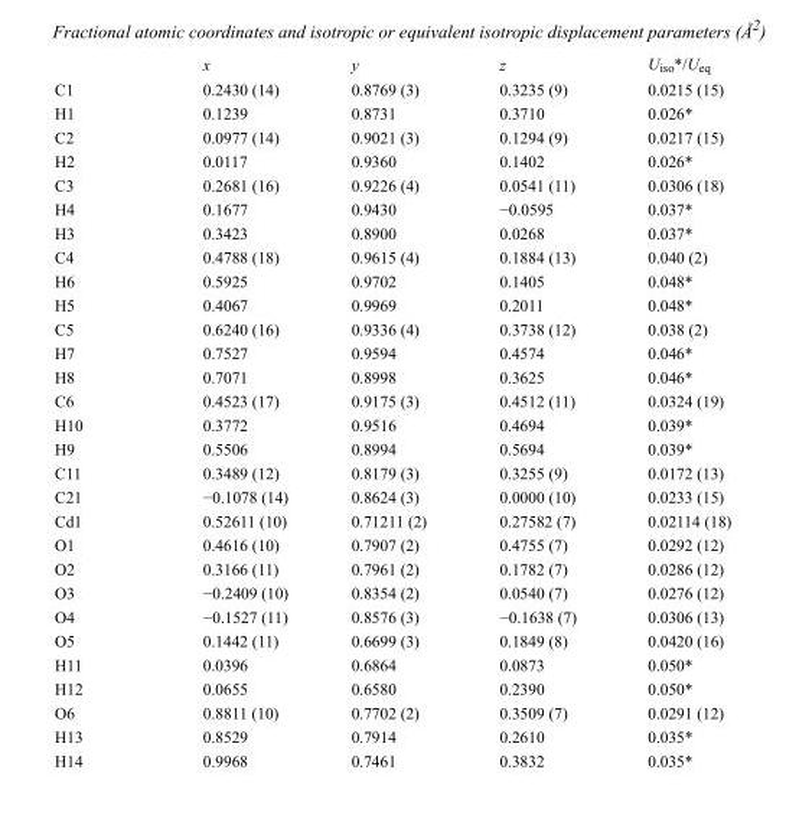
<table><thead><tr><td></td><td>x</td><td>y</td><td>z</td><td>U<sub>iso</sub>*/U<sub>eq</sub></td></tr></thead><tbody><tr><td>C1</td><td>0.2430 (14)</td><td>0.8769 (3)</td><td>0.3235 (9)</td><td>0.0215 (15)</td></tr><tr><td>H1</td><td>0.1239</td><td>0.8731</td><td>0.3710</td><td>0.026*</td></tr><tr><td>C2</td><td>0.0977 (14)</td><td>0.9021 (3)</td><td>0.1294 (9)</td><td>0.0217 (15)</td></tr><tr><td>H2</td><td>0.0117</td><td>0.9360</td><td>0.1402</td><td>0.026*</td></tr><tr><td>C3</td><td>0.2681 (16)</td><td>0.9226 (4)</td><td>0.0541 (11)</td><td>0.0306 (18)</td></tr><tr><td>H4</td><td>0.1677</td><td>0.9430</td><td>−0.0595</td><td>0.037*</td></tr><tr><td>H3</td><td>0.3423</td><td>0.8900</td><td>0.0268</td><td>0.037*</td></tr><tr><td>C4</td><td>0.4788 (18)</td><td>0.9615 (4)</td><td>0.1884 (13)</td><td>0.040 (2)</td></tr><tr><td>H6</td><td>0.5925</td><td>0.9702</td><td>0.1405</td><td>0.048*</td></tr><tr><td>H5</td><td>0.4067</td><td>0.9969</td><td>0.2011</td><td>0.048*</td></tr><tr><td>C5</td><td>0.6240 (16)</td><td>0.9336 (4)</td><td>0.3738 (12)</td><td>0.038 (2)</td></tr><tr><td>H7</td><td>0.7527</td><td>0.9594</td><td>0.4574</td><td>0.046*</td></tr><tr><td>H8</td><td>0.7071</td><td>0.8998</td><td>0.3625</td><td>0.046*</td></tr><tr><td>C6</td><td>0.4523 (17)</td><td>0.9175 (3)</td><td>0.4512 (11)</td><td>0.0324 (19)</td></tr><tr><td>H10</td><td>0.3772</td><td>0.9516</td><td>0.4694</td><td>0.039*</td></tr><tr><td>H9</td><td>0.5506</td><td>0.8994</td><td>0.5694</td><td>0.039*</td></tr><tr><td>C11</td><td>0.3489 (12)</td><td>0.8179 (3)</td><td>0.3255 (9)</td><td>0.0172 (13)</td></tr><tr><td>C21</td><td>−0.1078 (14)</td><td>0.8624 (3)</td><td>0.0000 (10)</td><td>0.0233 (15)</td></tr><tr><td>Cd1</td><td>0.52611 (10)</td><td>0.71211 (2)</td><td>0.27582 (7)</td><td>0.02114 (18)</td></tr><tr><td>O1</td><td>0.4616 (10)</td><td>0.7907 (2)</td><td>0.4755 (7)</td><td>0.0292 (12)</td></tr><tr><td>O2</td><td>0.3166 (11)</td><td>0.7961 (2)</td><td>0.1782 (7)</td><td>0.0286 (12)</td></tr><tr><td>O3</td><td>−0.2409 (10)</td><td>0.8354 (2)</td><td>0.0540 (7)</td><td>0.0276 (12)</td></tr><tr><td>O4</td><td>−0.1527 (11)</td><td>0.8576 (3)</td><td>−0.1638 (7)</td><td>0.0306 (13)</td></tr><tr><td>O5</td><td>0.1442 (11)</td><td>0.6699 (3)</td><td>0.1849 (8)</td><td>0.0420 (16)</td></tr><tr><td>H11</td><td>0.0396</td><td>0.6864</td><td>0.0873</td><td>0.050*</td></tr><tr><td>H12</td><td>0.0655</td><td>0.6580</td><td>0.2390</td><td>0.050*</td></tr><tr><td>O6</td><td>0.8811 (10)</td><td>0.7702 (2)</td><td>0.3509 (7)</td><td>0.0291 (12)</td></tr><tr><td>H13</td><td>0.8529</td><td>0.7914</td><td>0.2610</td><td>0.035*</td></tr><tr><td>H14</td><td>0.9968</td><td>0.7461</td><td>0.3832</td><td>0.035*</td></tr></tbody></table>